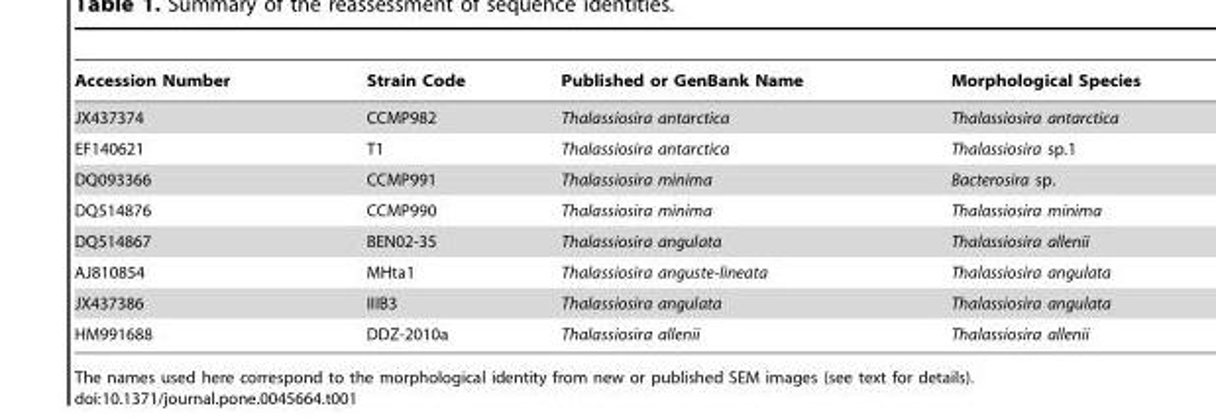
<table><thead><tr><td>Accession Number</td><td>Strain Code</td><td>Published or GenBank Name</td><td>Morphological Species</td></tr></thead><tbody><tr><td>JX437374</td><td>CCMP982</td><td>Thalassiosira antarctica</td><td>Thalassiosira antarctica</td></tr><tr><td>EF140621</td><td>T1</td><td>Thalassiosira antarctica</td><td>Thalassiosira sp.1</td></tr><tr><td>DQ093366</td><td>CCMP991</td><td>Thalassiosira minima</td><td>Bacterosira sp.</td></tr><tr><td>DQ514876</td><td>CCMP990</td><td>Thalassiosira minima</td><td>Thalassiosira minima</td></tr><tr><td>DQ514867</td><td>BEN02-35</td><td>Thalassiosira angulata</td><td>Thalassiosira allenii</td></tr><tr><td>AJ810854</td><td>MHta1</td><td>Thalassiosira anguste-lineata</td><td>Thalassiosira angulata</td></tr><tr><td>JX437386</td><td>IIIB3</td><td>Thalassiosira angulata</td><td>Thalassiosira angulata</td></tr><tr><td>HM991688</td><td>DDZ-2010a</td><td>Thalassiosira allenii</td><td>Thalassiosira allenii</td></tr></tbody></table>